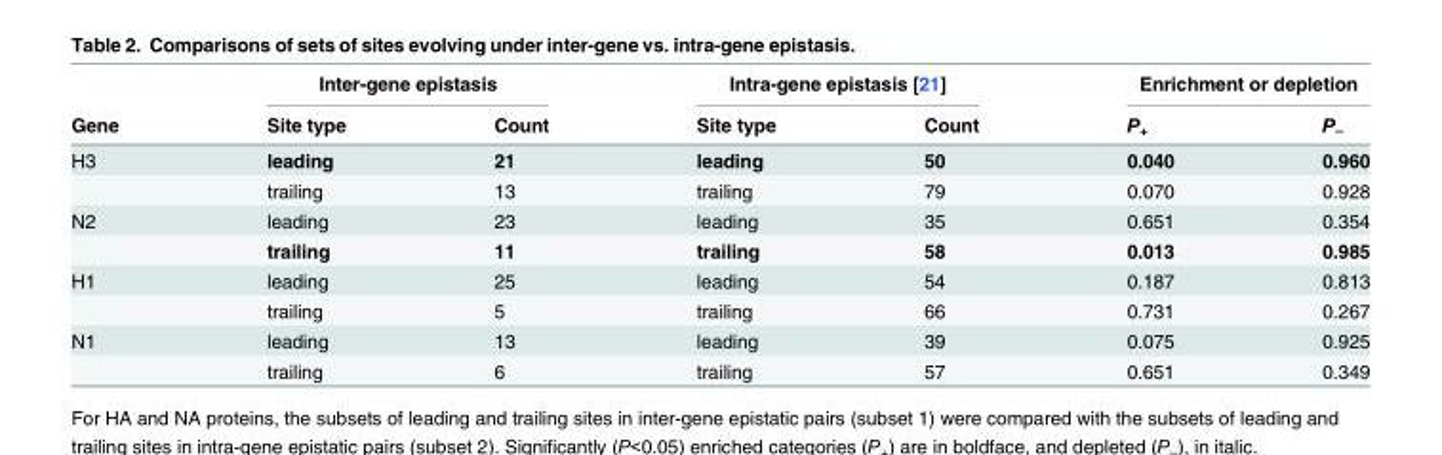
<table><thead><tr><td rowspan="2">Gene</td><td colspan="2">Inter-gene epistasis</td><td colspan="2">Intra-gene epistasis [21]</td><td colspan="2">Enrichment or depletion</td></tr><tr><td>Site type</td><td>Count</td><td>Site type</td><td>Count</td><td>P<sub>+</sub></td><td>P<sub>–</sub></td></tr></thead><tbody><tr><td rowspan="2">H3</td><td>leading</td><td>21</td><td>leading</td><td>50</td><td>0.040</td><td>0.960</td></tr><tr><td>trailing</td><td>13</td><td>trailing</td><td>79</td><td>0.070</td><td>0.928</td></tr><tr><td rowspan="2">N2</td><td>leading</td><td>23</td><td>leading</td><td>35</td><td>0.651</td><td>0.354</td></tr><tr><td>trailing</td><td>11</td><td>trailing</td><td>58</td><td>0.013</td><td>0.985</td></tr><tr><td rowspan="2">H1</td><td>leading</td><td>25</td><td>leading</td><td>54</td><td>0.187</td><td>0.813</td></tr><tr><td>trailing</td><td>5</td><td>trailing</td><td>66</td><td>0.731</td><td>0.267</td></tr><tr><td rowspan="2">N1</td><td>leading</td><td>13</td><td>leading</td><td>39</td><td>0.075</td><td>0.925</td></tr><tr><td>trailing</td><td>6</td><td>trailing</td><td>57</td><td>0.651</td><td>0.349</td></tr></tbody></table>